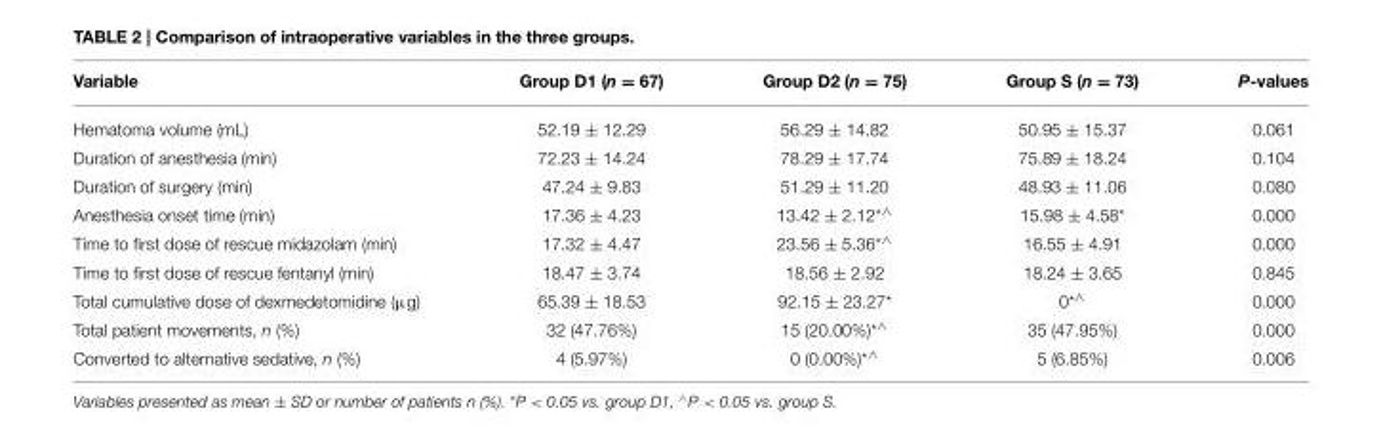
<table><thead><tr><td>Variable</td><td>Group D1 (n = 67)</td><td>Group D2 (n = 75)</td><td>Group S (n = 73)</td><td>P-values</td></tr></thead><tbody><tr><td>Hematoma volume (mL)</td><td>52.19 ± 12.29</td><td>56.29 ± 14.82</td><td>50.95 ± 15.37</td><td>0.061</td></tr><tr><td>Duration of anesthesia (min)</td><td>72.23 ± 14.24</td><td>78.29 ± 17.74</td><td>75.89 ± 18.24</td><td>0.104</td></tr><tr><td>Duration of surgery (min)</td><td>47.24 ± 9.83</td><td>51.29 ± 11.20</td><td>48.93 ± 11.06</td><td>0.080</td></tr><tr><td>Anesthesia onset time (min)</td><td>17.36 ± 4.23</td><td>13.42 ± 2.12<sup>*∧</sup></td><td>15.98 ± 4.58*</td><td>0.000</td></tr><tr><td>Time to first dose of rescue midazolam (min)</td><td>17.32 ± 4.47</td><td>23.56 ± 5.36<sup>*∧</sup></td><td>16.55 ± 4.91</td><td>0.000</td></tr><tr><td>Time to first dose of rescue fentanyl (min)</td><td>18.47 ± 3.74</td><td>18.56 ± 2.92</td><td>18.24 ± 3.65</td><td>0.845</td></tr><tr><td>Total cumulative dose of dexmedetomidine (µg)</td><td>65.39 ± 18.53</td><td>92.15 ± 23.27*</td><td>0<sup>*∧</sup></td><td>0.000</td></tr><tr><td>Total patient movements, n (%)</td><td>32 (47.76%)</td><td>15 (20.00%)<sup>*∧</sup></td><td>35 (47.95%)</td><td>0.000</td></tr><tr><td>Converted to alternative sedative, n (%)</td><td>4 (5.97%)</td><td>0 (0.00%)<sup>*∧</sup></td><td>5 (6.85%)</td><td>0.006</td></tr></tbody></table>